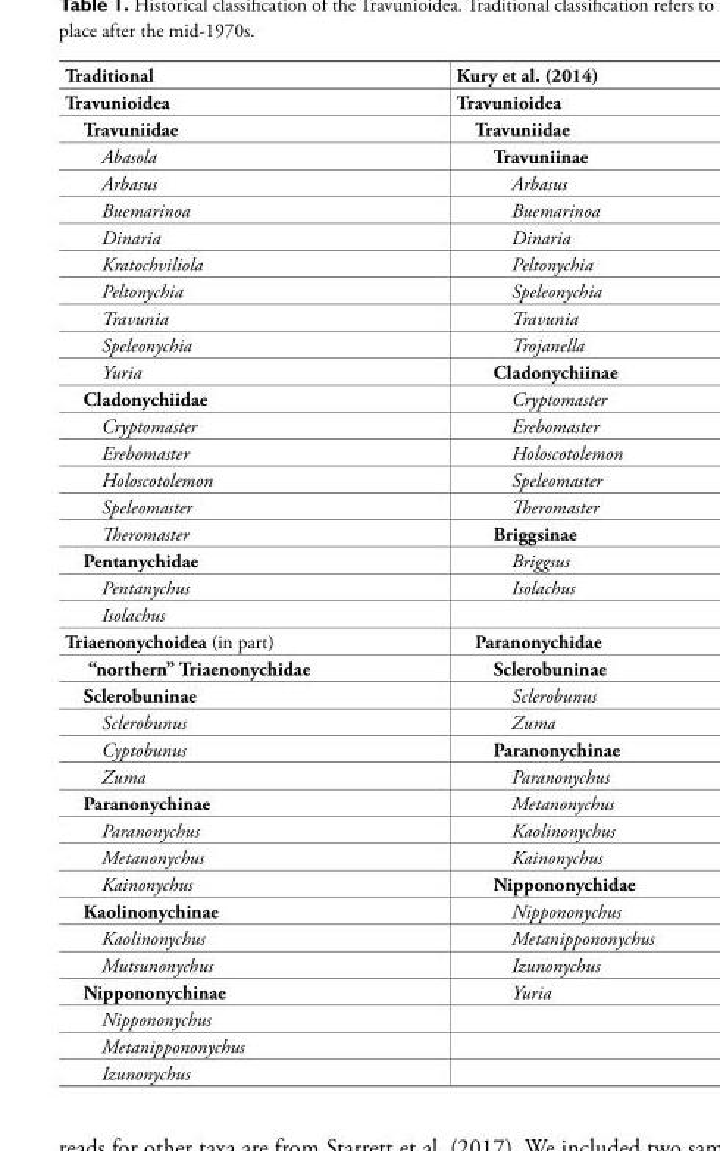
<table><thead><tr><td>Traditional</td><td>Kury et al. (2014)</td></tr></thead><tbody><tr><td>Travunioidea</td><td>Travunioidea</td></tr><tr><td>Travuniidae</td><td>Travuniidae</td></tr><tr><td>Abasola</td><td>Travuniinae</td></tr><tr><td>Arbasus</td><td>Arbasus</td></tr><tr><td>Buemarinoa</td><td>Buemarinoa</td></tr><tr><td>Dinaria</td><td>Dinaria</td></tr><tr><td>Kratochviliola</td><td>Peltonychia</td></tr><tr><td>Peltonychia</td><td>Speleonychia</td></tr><tr><td>Travunia</td><td>Travunia</td></tr><tr><td>Speleonychia</td><td>Trojanella</td></tr><tr><td>Yuria</td><td>Cladonychiinae</td></tr><tr><td>Cladonychiidae</td><td>Cryptomaster</td></tr><tr><td>Cryptomaster</td><td>Erebomaster</td></tr><tr><td>Erebomaster</td><td>Holoscotolemon</td></tr><tr><td>Holoscotolemon</td><td>Speleomaster</td></tr><tr><td>Speleomaster</td><td>Theromaster</td></tr><tr><td>Theromaster</td><td>Briggsinae</td></tr><tr><td>Pentanychidae</td><td>Briggsus</td></tr><tr><td>Pentanychus</td><td>Isolachus</td></tr><tr><td colspan="2">Isolachus</td></tr><tr><td>Triaenonychoidea (in part)</td><td>Paranonychidae</td></tr><tr><td>“northern” Triaenonychidae</td><td>Sclerobuninae</td></tr><tr><td>Sclerobuninae</td><td>Sclerobunus</td></tr><tr><td>Sclerobunus</td><td>Zuma</td></tr><tr><td>Cyptobunus</td><td>Paranonychinae</td></tr><tr><td>Zuma</td><td>Paranonychus</td></tr><tr><td>Paranonychinae</td><td>Metanonychus</td></tr><tr><td>Paranonychus</td><td>Kaolinonychus</td></tr><tr><td>Metanonychus</td><td>Kainonychus</td></tr><tr><td>Kainonychus</td><td>Nippononychidae</td></tr><tr><td>Kaolinonychinae</td><td>Nippononychus</td></tr><tr><td>Kaolinonychus</td><td>Metanippononychus</td></tr><tr><td>Mutsunonychus</td><td>Izunonychus</td></tr><tr><td>Nippononychinae</td><td>Yuria</td></tr><tr><td colspan="2">Nippononychus</td></tr><tr><td colspan="2">Metanippononychus</td></tr><tr><td>Izunonychus</td><td></td></tr></tbody></table>